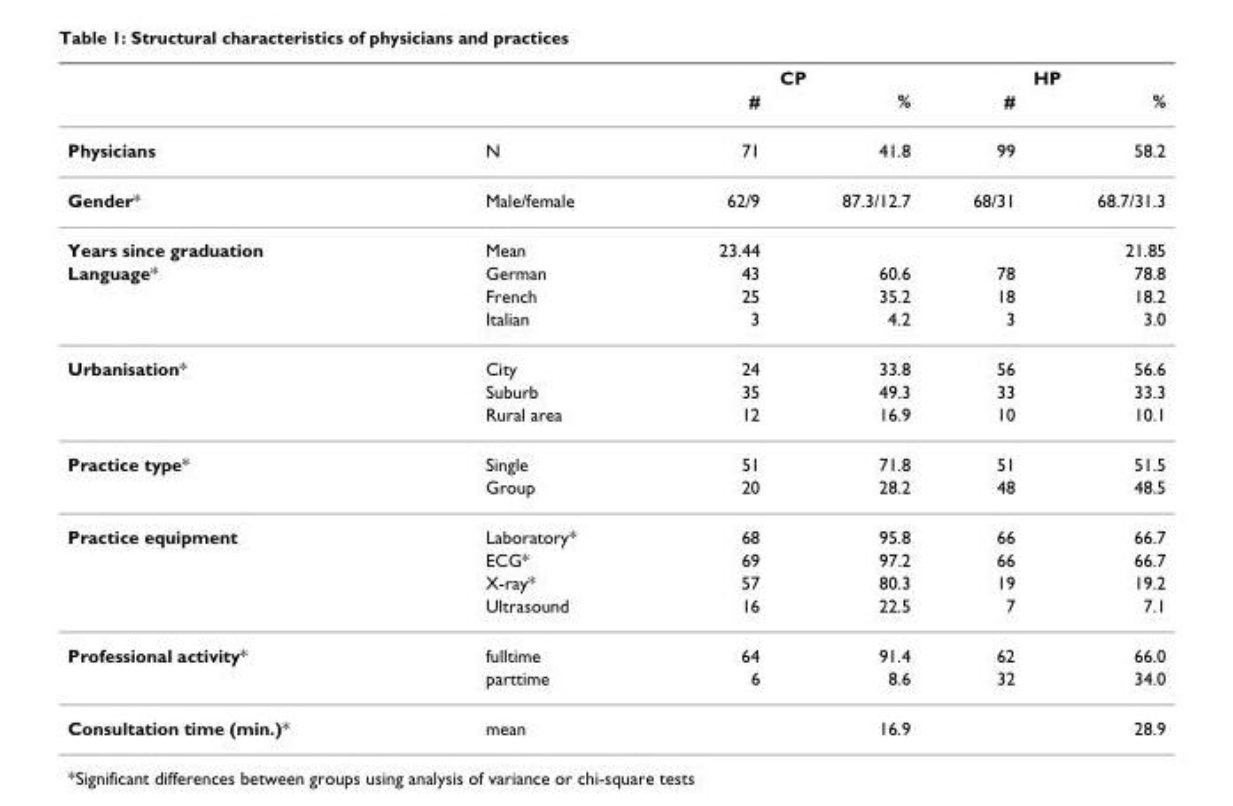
<table><thead><tr><td rowspan="2"></td><td rowspan="2"></td><td colspan="2">CP</td><td colspan="2">HP</td></tr><tr><td>#</td><td>%</td><td>#</td><td>%</td></tr></thead><tbody><tr><td>Physicians</td><td>N</td><td>71</td><td>41.8</td><td>99</td><td>58.2</td></tr><tr><td>Gender*</td><td>Male/female</td><td>62/9</td><td>87.3/12.7</td><td>68/31</td><td>68.7/31.3</td></tr><tr><td>Years since graduation</td><td>Mean</td><td>23.44</td><td></td><td></td><td>21.85</td></tr><tr><td rowspan="3">Language*</td><td>German</td><td>43</td><td>60.6</td><td>78</td><td>78.8</td></tr><tr><td>French</td><td>25</td><td>35.2</td><td>18</td><td>18.2</td></tr><tr><td>Italian</td><td>3</td><td>4.2</td><td>3</td><td>3.0</td></tr><tr><td rowspan="3">Urbanisation*</td><td>City</td><td>24</td><td>33.8</td><td>56</td><td>56.6</td></tr><tr><td>Suburb</td><td>35</td><td>49.3</td><td>33</td><td>33.3</td></tr><tr><td>Rural area</td><td>12</td><td>16.9</td><td>10</td><td>10.1</td></tr><tr><td rowspan="2">Practice type*</td><td>Single</td><td>51</td><td>71.8</td><td>51</td><td>51.5</td></tr><tr><td>Group</td><td>20</td><td>28.2</td><td>48</td><td>48.5</td></tr><tr><td rowspan="4">Practice equipment</td><td>Laboratory*</td><td>68</td><td>95.8</td><td>66</td><td>66.7</td></tr><tr><td>ECG*</td><td>69</td><td>97.2</td><td>66</td><td>66.7</td></tr><tr><td>X-ray*</td><td>57</td><td>80.3</td><td>19</td><td>19.2</td></tr><tr><td>Ultrasound</td><td>16</td><td>22.5</td><td>7</td><td>7.1</td></tr><tr><td rowspan="2">Professional activity*</td><td>fulltime</td><td>64</td><td>91.4</td><td>62</td><td>66.0</td></tr><tr><td>parttime</td><td>6</td><td>8.6</td><td>32</td><td>34.0</td></tr><tr><td>Consultation time (min.)*</td><td>mean</td><td></td><td>16.9</td><td></td><td>28.9</td></tr></tbody></table>